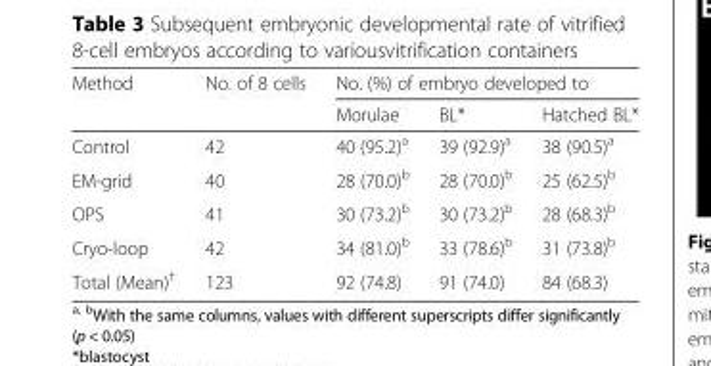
<table><thead><tr><td rowspan="2">Method</td><td rowspan="2">No. of 8 cells</td><td colspan="3">No. (%) of embryo developed to</td></tr><tr><td>Morulae</td><td>BL*</td><td>Hatched BL*</td></tr></thead><tbody><tr><td>Control</td><td>42</td><td>40 (95.2)<sup>a</sup></td><td>39 (92.9)<sup>a</sup></td><td>38 (90.5)<sup>a</sup></td></tr><tr><td>EM-grid</td><td>40</td><td>28 (70.0)<sup>b</sup></td><td>28 (70.0)<sup>b</sup></td><td>25 (62.5)<sup>b</sup></td></tr><tr><td>OPS</td><td>41</td><td>30 (73.2)<sup>b</sup></td><td>30 (73.2)<sup>b</sup></td><td>28 (68.3)<sup>b</sup></td></tr><tr><td>Cryo-loop</td><td>42</td><td>34 (81.0)<sup>b</sup></td><td>33 (78.6)<sup>b</sup></td><td>31 (73.8)<sup>b</sup></td></tr><tr><td>Total (Mean)<sup>†</sup></td><td>123</td><td>92 (74.8)</td><td>91 (74.0)</td><td>84 (68.3)</td></tr></tbody></table>